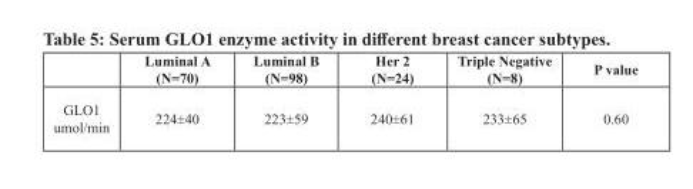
<table><thead><tr><td></td><td>Luminal A (N=70)</td><td>Luminal B (N=98)</td><td>Her 2 (N=24)</td><td>Triple Negative (N=8)</td><td>P value</td></tr></thead><tbody><tr><td>GLO1 umol/min</td><td>224±40</td><td>223±59</td><td>240±61</td><td>233±65</td><td>0.60</td></tr></tbody></table>